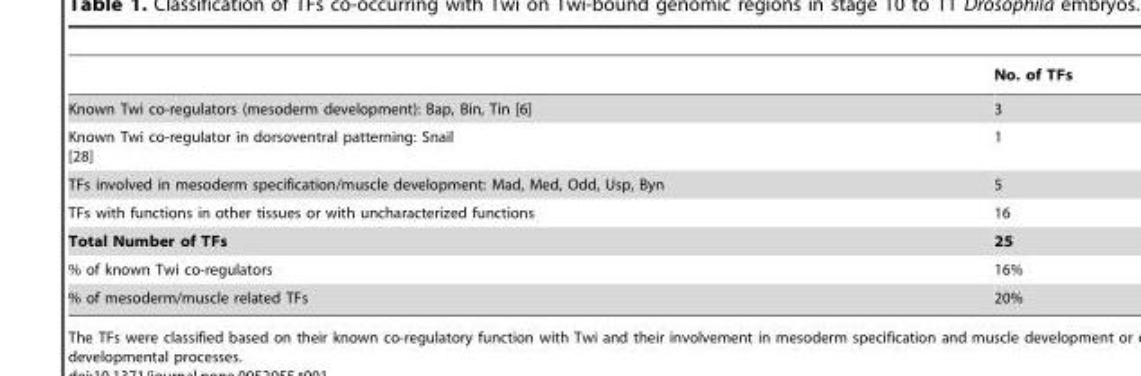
<table><thead><tr><td></td><td>No. of TFs</td></tr></thead><tbody><tr><td>Known Twi co-regulators (mesoderm development): Bap, Bin, Tin [6]</td><td>3</td></tr><tr><td>Known Twi co-regulator in dorsoventral patterning: Snail [28]</td><td>1</td></tr><tr><td>TFs involved in mesoderm specification/muscle development: Mad, Med, Odd, Usp, Byn</td><td>5</td></tr><tr><td>TFs with functions in other tissues or with uncharacterized functions</td><td>16</td></tr><tr><td>Total Number of TFs</td><td>25</td></tr><tr><td>% of known Twi co-regulators</td><td>16%</td></tr><tr><td>% of mesoderm/muscle related TFs</td><td>20%</td></tr></tbody></table>